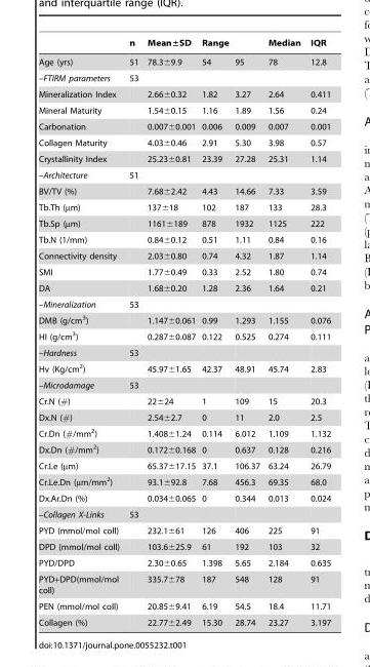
<table><thead><tr><td rowspan="2">Age (yrs)</td><td rowspan="2">n 51</td><td rowspan="2">Mean±SD 78.3±9.9</td><td colspan="2">Range</td><td rowspan="2">Median 78</td><td rowspan="2">IQR 12.8</td></tr><tr><td>54</td><td>95</td></tr></thead><tbody><tr><td>–FTIRM parameters</td><td>53</td><td></td><td></td><td></td><td></td><td></td></tr><tr><td>Mineralization Index</td><td></td><td>2.66±0.32</td><td>1.82</td><td>3.27</td><td>2.64</td><td>0.411</td></tr><tr><td>Mineral Maturity</td><td></td><td>1.54±0.15</td><td>1.16</td><td>1.89</td><td>1.56</td><td>0.24</td></tr><tr><td>Carbonation</td><td></td><td>0.007±0.001</td><td>0.006</td><td>0.009</td><td>0.007</td><td>0.001</td></tr><tr><td>Collagen Maturity</td><td></td><td>4.03±0.46</td><td>2.91</td><td>5.30</td><td>3.98</td><td>0.57</td></tr><tr><td>Crystallinity Index</td><td></td><td>25.23±0.81</td><td>23.39</td><td>27.28</td><td>25.31</td><td>1.14</td></tr><tr><td>–Architecture</td><td>51</td><td></td><td></td><td></td><td></td><td></td></tr><tr><td>BV/TV (%)</td><td></td><td>7.68±2.42</td><td>4.43</td><td>14.66</td><td>7.33</td><td>3.59</td></tr><tr><td>Tb.Th (µm)</td><td></td><td>137±18</td><td>102</td><td>187</td><td>133</td><td>28.3</td></tr><tr><td>Tb.Sp (µm)</td><td></td><td>1161±189</td><td>878</td><td>1932</td><td>1125</td><td>222</td></tr><tr><td>Tb.N (1/mm)</td><td></td><td>0.84±0.12</td><td>0.51</td><td>1.11</td><td>0.84</td><td>0.16</td></tr><tr><td>Connectivity density</td><td></td><td>2.03±0.80</td><td>0.74</td><td>4.32</td><td>1.87</td><td>1.14</td></tr><tr><td>SMI</td><td></td><td>1.77±0.49</td><td>0.33</td><td>2.52</td><td>1.80</td><td>0.74</td></tr><tr><td>DA</td><td></td><td>1.68±0.20</td><td>1.28</td><td>2.36</td><td>1.64</td><td>0.21</td></tr><tr><td>–Mineralization</td><td>53</td><td></td><td></td><td></td><td></td><td></td></tr><tr><td>DMB (g/cm<sup>3</sup>)</td><td></td><td>1.147±0.061</td><td>0.99</td><td>1.293</td><td>1.155</td><td>0.076</td></tr><tr><td>HI (g/cm<sup>3</sup>)</td><td></td><td>0.287±0.087</td><td>0.122</td><td>0.525</td><td>0.274</td><td>0.111</td></tr><tr><td>–Hardness</td><td>53</td><td></td><td></td><td></td><td></td><td></td></tr><tr><td>Hv (Kg/cm<sup>2</sup>)</td><td></td><td>45.97±1.65</td><td>42.37</td><td>48.91</td><td>45.74</td><td>2.83</td></tr><tr><td>–Microdamage</td><td>53</td><td></td><td></td><td></td><td></td><td></td></tr><tr><td>Cr.N (#)</td><td></td><td>22±24</td><td>1</td><td>109</td><td>15</td><td>20.3</td></tr><tr><td>Dx.N (#)</td><td></td><td>2.54±2.7</td><td>0</td><td>11</td><td>2.0</td><td>2.5</td></tr><tr><td>Cr.Dn (#/mm<sup>2</sup>)</td><td></td><td>1.408±1.24</td><td>0.114</td><td>6.012</td><td>1.109</td><td>1.132</td></tr><tr><td>Dx.Dn (#/mm<sup>2</sup>)</td><td></td><td>0.172±0.168</td><td>0</td><td>0.637</td><td>0.128</td><td>0.216</td></tr><tr><td>Cr.Le (µm)</td><td></td><td>65.37±17.15</td><td>37.1</td><td>106.37</td><td>63.24</td><td>26.79</td></tr><tr><td>Cr.Le.Dn (µm/mm<sup>2</sup>)</td><td></td><td>93.1±92.8</td><td>7.68</td><td>456.3</td><td>69.35</td><td>68.0</td></tr><tr><td>Dx.Ar.Dn (%)</td><td></td><td>0.034±0.065</td><td>0</td><td>0.344</td><td>0.013</td><td>0.024</td></tr><tr><td>–Collagen X-Links</td><td>53</td><td></td><td></td><td></td><td></td><td></td></tr><tr><td>PYD (mmol/mol coll)</td><td></td><td>232.1±61</td><td>126</td><td>406</td><td>225</td><td>91</td></tr><tr><td>DPD (mmol/mol coll)</td><td></td><td>103.6±25.9</td><td>61</td><td>192</td><td>103</td><td>32</td></tr><tr><td>PYD/DPD</td><td></td><td>2.30±0.65</td><td>1.398</td><td>5.65</td><td>2.184</td><td>0.635</td></tr><tr><td>PYD+DPD(mmol/mol coll)</td><td></td><td>335.7±78</td><td>187</td><td>548</td><td>128</td><td>91</td></tr><tr><td>PEN (mmol/mol coll)</td><td></td><td>20.85±9.41</td><td>6.19</td><td>54.5</td><td>18.4</td><td>11.71</td></tr><tr><td>Collagen (%)</td><td></td><td>22.77±2.49</td><td>15.30</td><td>28.74</td><td>23.27</td><td>3.197</td></tr></tbody></table>